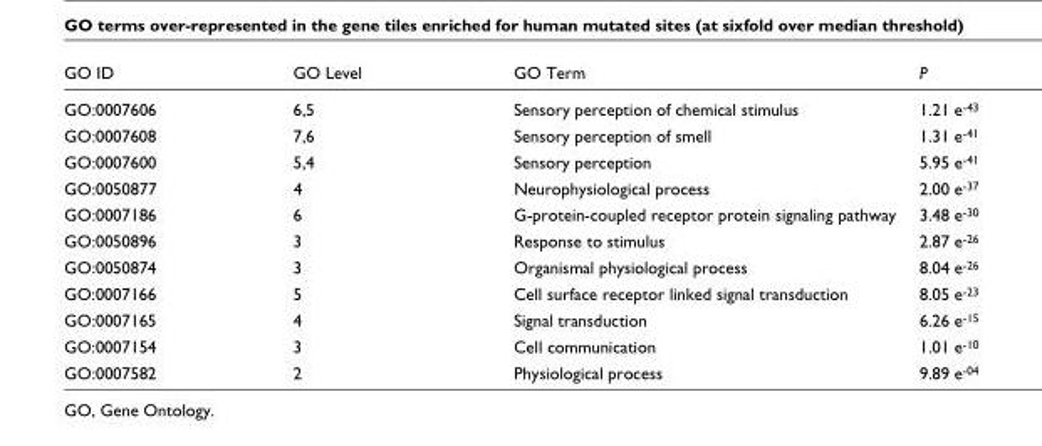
<table><thead><tr><td>GO ID</td><td>GO Level</td><td>GO Term</td><td>P</td></tr></thead><tbody><tr><td>GO:0007606</td><td>6,5</td><td>Sensory perception of chemical stimulus</td><td>1.21 e-43</td></tr><tr><td>GO:0007608</td><td>7,6</td><td>Sensory perception of smell</td><td>1.31 e-41</td></tr><tr><td>GO:0007600</td><td>5,4</td><td>Sensory perception</td><td>5.95 e-41</td></tr><tr><td>GO:0050877</td><td>4</td><td>Neurophysiological process</td><td>2.00 e-37</td></tr><tr><td>GO:0007186</td><td>6</td><td>G-protein-coupled receptor protein signaling pathway</td><td>3.48 e-30</td></tr><tr><td>GO:0050896</td><td>3</td><td>Response to stimulus</td><td>2.87 e-26</td></tr><tr><td>GO:0050874</td><td>3</td><td>Organismal physiological process</td><td>8.04 e-26</td></tr><tr><td>GO:0007166</td><td>5</td><td>Cell surface receptor linked signal transduction</td><td>8.05 e-23</td></tr><tr><td>GO:0007165</td><td>4</td><td>Signal transduction</td><td>6.26 e-15</td></tr><tr><td>GO:0007154</td><td>3</td><td>Cell communication</td><td>1.01 e-10</td></tr><tr><td>GO:0007582</td><td>2</td><td>Physiological process</td><td>9.89 e-04</td></tr></tbody></table>